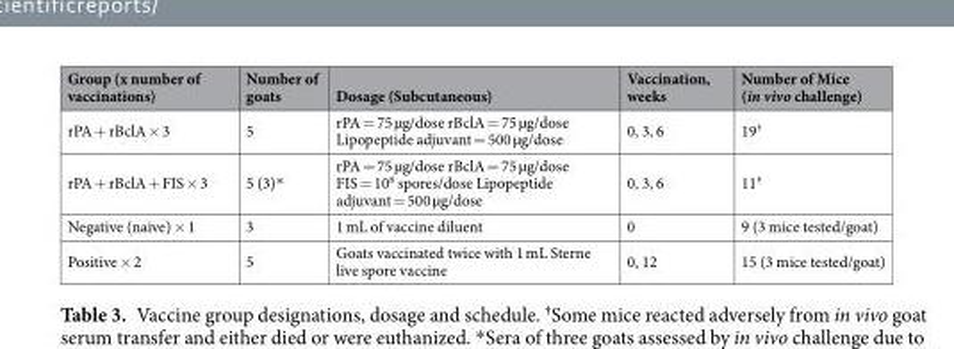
<table><thead><tr><td>Group (x number of vaccinations)</td><td>Number of goats</td><td>Dosage (Subcutaneous)</td><td>Vaccination, weeks</td><td>Number of Mice (in vivo challenge)</td></tr></thead><tbody><tr><td>rPA + rBclA × 3</td><td>5</td><td>rPA = 75 µg/dose rBclA = 75 µg/dose Lipopeptide adjuvant = 500 µg/dose</td><td>0, 3, 6</td><td>19<sup>†</sup></td></tr><tr><td>rPA + rBclA + FIS × 3</td><td>5 (3)*</td><td>rPA = 75 µg/dose rBclA = 75 µg/dose FIS = 10<sup>8</sup> spores/dose Lipopeptide adjuvant = 500 µg/dose</td><td>0, 3, 6</td><td>11<sup>†</sup></td></tr><tr><td>Negative (naive) × 1</td><td>3</td><td>1 mL of vaccine diluent</td><td>0</td><td>9 (3 mice tested/goat)</td></tr><tr><td>Positive × 2</td><td>5</td><td>Goats vaccinated twice with 1 mL Sterne live spore vaccine</td><td>0, 12</td><td>15 (3 mice tested/goat)</td></tr></tbody></table>